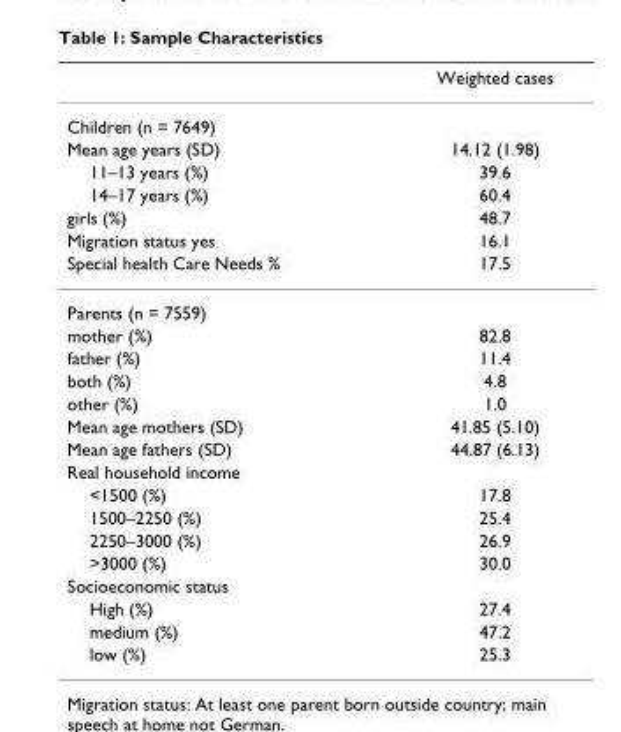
<table><thead><tr><td></td><td>Weighted cases</td></tr></thead><tbody><tr><td colspan="2">Children (n = 7649)</td></tr><tr><td>Mean age years (SD)</td><td>14.12 (1.98)</td></tr><tr><td>11–13 years (%)</td><td>39.6</td></tr><tr><td>14–17 years (%)</td><td>60.4</td></tr><tr><td>girls (%)</td><td>48.7</td></tr><tr><td>Migration status yes</td><td>16.1</td></tr><tr><td>Special health Care Needs %</td><td>17.5</td></tr><tr><td colspan="2">Parents (n = 7559)</td></tr><tr><td>mother (%)</td><td>82.8</td></tr><tr><td>father (%)</td><td>11.4</td></tr><tr><td>both (%)</td><td>4.8</td></tr><tr><td>other (%)</td><td>1.0</td></tr><tr><td>Mean age mothers (SD)</td><td>41.85 (5.10)</td></tr><tr><td>Mean age fathers (SD)</td><td>44.87 (6.13)</td></tr><tr><td colspan="2">Real household income</td></tr><tr><td>&lt;1500 (%)</td><td>17.8</td></tr><tr><td>1500–2250 (%)</td><td>25.4</td></tr><tr><td>2250–3000 (%)</td><td>26.9</td></tr><tr><td>&gt;3000 (%)</td><td>30.0</td></tr><tr><td colspan="2">Socioeconomic status</td></tr><tr><td>High (%)</td><td>27.4</td></tr><tr><td>medium (%)</td><td>47.2</td></tr><tr><td>low (%)</td><td>25.3</td></tr></tbody></table>